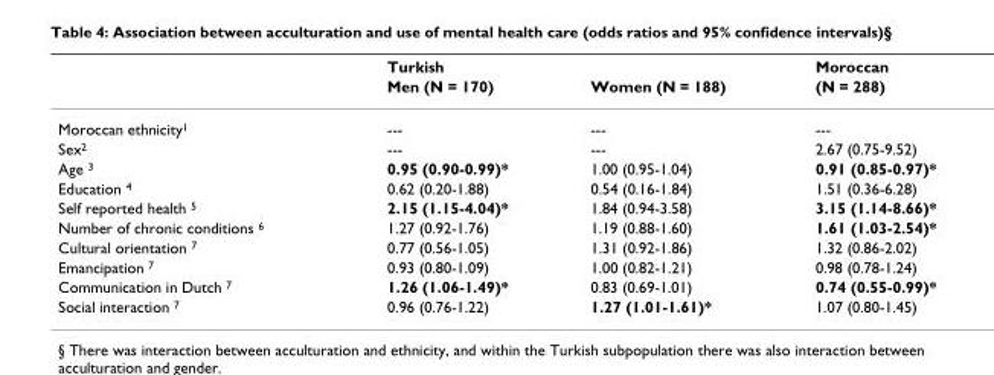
<table><thead><tr><td rowspan="2"></td><td rowspan="2">Turkish Men (N = 170)</td><td rowspan="2">Women (N = 188)</td><td rowspan="2">Moroccan (N = 288)</td></tr><tr></tr></thead><tbody><tr><td>Moroccan ethnicity<sup>1</sup></td><td>---</td><td>---</td><td>---</td></tr><tr><td>Sex<sup>2</sup></td><td>---</td><td>---</td><td>2.67 (0.75-9.52)</td></tr><tr><td>Age <sup>3</sup></td><td>0.95 (0.90-0.99)*</td><td>1.00 (0.95-1.04)</td><td>0.91 (0.85-0.97)*</td></tr><tr><td>Education <sup>4</sup></td><td>0.62 (0.20-1.88)</td><td>0.54 (0.16-1.84)</td><td>1.51 (0.36-6.28)</td></tr><tr><td>Self reported health <sup>5</sup></td><td>2.15 (1.15-4.04)*</td><td>1.84 (0.94-3.58)</td><td>3.15 (1.14-8.66)*</td></tr><tr><td>Number of chronic conditions <sup>6</sup></td><td>1.27 (0.92-1.76)</td><td>1.19 (0.88-1.60)</td><td>1.61 (1.03-2.54)*</td></tr><tr><td>Cultural orientation <sup>7</sup></td><td>0.77 (0.56-1.05)</td><td>1.31 (0.92-1.86)</td><td>1.32 (0.86-2.02)</td></tr><tr><td>Emancipation <sup>7</sup></td><td>0.93 (0.80-1.09)</td><td>1.00 (0.82-1.21)</td><td>0.98 (0.78-1.24)</td></tr><tr><td>Communication in Dutch <sup>7</sup></td><td>1.26 (1.06-1.49)*</td><td>0.83 (0.69-1.01)</td><td>0.74 (0.55-0.99)*</td></tr><tr><td>Social interaction <sup>7</sup></td><td>0.96 (0.76-1.22)</td><td>1.27 (1.01-1.61)*</td><td>1.07 (0.80-1.45)</td></tr></tbody></table>